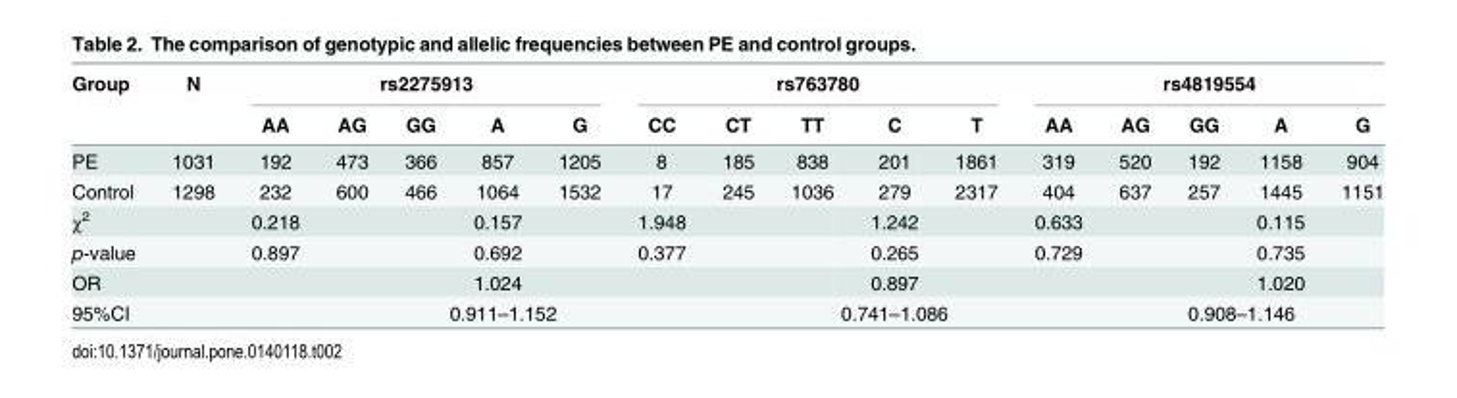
<table><thead><tr><td rowspan="2">Group</td><td rowspan="2">N</td><td colspan="5">rs2275913</td><td colspan="5">rs763780</td><td colspan="5">rs4819554</td></tr><tr><td>AA</td><td>AG</td><td>GG</td><td>A</td><td>G</td><td>CC</td><td>CT</td><td>TT</td><td>C</td><td>T</td><td>AA</td><td>AG</td><td>GG</td><td>A</td><td>G</td></tr></thead><tbody><tr><td>PE</td><td>1031</td><td>192</td><td>473</td><td>366</td><td>857</td><td>1205</td><td>8</td><td>185</td><td>838</td><td>201</td><td>1861</td><td>319</td><td>520</td><td>192</td><td>1158</td><td>904</td></tr><tr><td>Control</td><td>1298</td><td>232</td><td>600</td><td>466</td><td>1064</td><td>1532</td><td>17</td><td>245</td><td>1036</td><td>279</td><td>2317</td><td>404</td><td>637</td><td>257</td><td>1445</td><td>1151</td></tr><tr><td>χ<sup>2</sup></td><td></td><td>0.218</td><td></td><td></td><td>0.157</td><td></td><td>1.948</td><td></td><td></td><td>1.242</td><td></td><td>0.633</td><td></td><td></td><td>0.115</td><td></td></tr><tr><td>p-value</td><td></td><td>0.897</td><td></td><td></td><td>0.692</td><td></td><td>0.377</td><td></td><td></td><td>0.265</td><td></td><td>0.729</td><td></td><td></td><td>0.735</td><td></td></tr><tr><td>OR</td><td></td><td></td><td></td><td></td><td>1.024</td><td></td><td></td><td></td><td></td><td>0.897</td><td></td><td></td><td></td><td></td><td>1.020</td><td></td></tr><tr><td>95%CI</td><td></td><td></td><td></td><td colspan="3">0.911–1.152</td><td></td><td></td><td colspan="3">0.741–1.086</td><td></td><td></td><td colspan="3">0.908–1.146</td></tr></tbody></table>